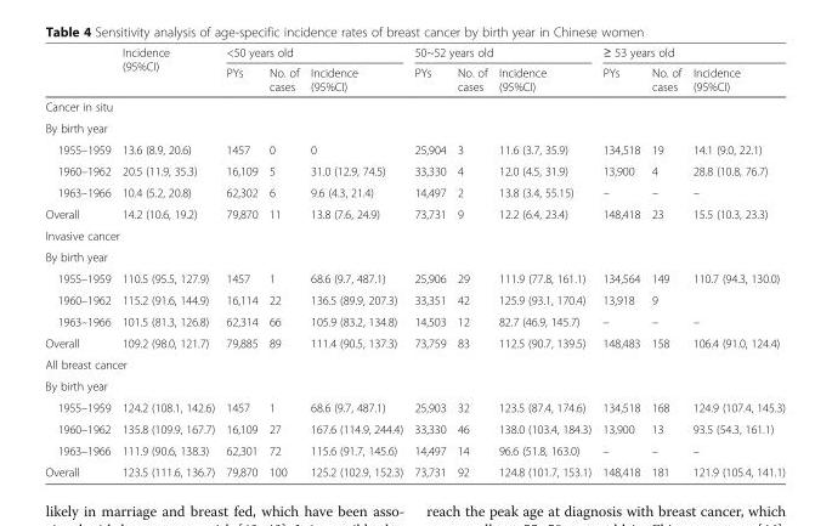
<table><thead><tr><td rowspan="2"></td><td rowspan="2">Incidence (95%CI)</td><td colspan="3">&lt;50 years old</td><td colspan="3">50~52 years old</td><td colspan="3">≥ 53 years old</td></tr><tr><td>PYs</td><td>No. of cases</td><td>Incidence (95%CI)</td><td>PYs</td><td>No. of cases</td><td>Incidence (95%CI)</td><td>PYs</td><td>No. of cases</td><td>Incidence (95%CI)</td></tr></thead><tbody><tr><td colspan="11">Cancer in situ</td></tr><tr><td colspan="11">By birth year</td></tr><tr><td>1955–1959</td><td>13.6 (8.9, 20.6)</td><td>1457</td><td>0</td><td>0</td><td>25,904</td><td>3</td><td>11.6 (3.7, 35.9)</td><td>134,518</td><td>19</td><td>14.1 (9.0, 22.1)</td></tr><tr><td>1960–1962</td><td>20.5 (11.9, 35.3)</td><td>16,109</td><td>5</td><td>31.0 (12.9, 74.5)</td><td>33,330</td><td>4</td><td>12.0 (4.5, 31.9)</td><td>13,900</td><td>4</td><td>28.8 (10.8, 76.7)</td></tr><tr><td>1963–1966</td><td>10.4 (5.2, 20.8)</td><td>62,302</td><td>6</td><td>9.6 (4.3, 21.4)</td><td>14,497</td><td>2</td><td>13.8 (3.4, 55.15)</td><td>–</td><td>–</td><td>–</td></tr><tr><td>Overall</td><td>14.2 (10.6, 19.2)</td><td>79,870</td><td>11</td><td>13.8 (7.6, 24.9)</td><td>73,731</td><td>9</td><td>12.2 (6.4, 23.4)</td><td>148,418</td><td>23</td><td>15.5 (10.3, 23.3)</td></tr><tr><td colspan="11">Invasive cancer</td></tr><tr><td colspan="11">By birth year</td></tr><tr><td>1955–1959</td><td>110.5 (95.5, 127.9)</td><td>1457</td><td>1</td><td>68.6 (9.7, 487.1)</td><td>25,906</td><td>29</td><td>111.9 (77.8, 161.1)</td><td>134,564</td><td>149</td><td>110.7 (94.3, 130.0)</td></tr><tr><td>1960–1962</td><td>115.2 (91.6, 144.9)</td><td>16,114</td><td>22</td><td>136.5 (89.9, 207.3)</td><td>33,351</td><td>42</td><td>125.9 (93.1, 170.4)</td><td>13,918</td><td>9</td><td></td></tr><tr><td>1963–1966</td><td>101.5 (81.3, 126.8)</td><td>62,314</td><td>66</td><td>105.9 (83.2, 134.8)</td><td>14,503</td><td>12</td><td>82.7 (46.9, 145.7)</td><td>–</td><td>–</td><td>–</td></tr><tr><td>Overall</td><td>109.2 (98.0, 121.7)</td><td>79,885</td><td>89</td><td>111.4 (90.5, 137.3)</td><td>73,759</td><td>83</td><td>112.5 (90.7, 139.5)</td><td>148,483</td><td>158</td><td>106.4 (91.0, 124.4)</td></tr><tr><td colspan="11">All breast cancer</td></tr><tr><td colspan="11">By birth year</td></tr><tr><td>1955–1959</td><td>124.2 (108.1, 142.6)</td><td>1457</td><td>1</td><td>68.6 (9.7, 487.1)</td><td>25,903</td><td>32</td><td>123.5 (87.4, 174.6)</td><td>134,518</td><td>168</td><td>124.9 (107.4, 145.3)</td></tr><tr><td>1960–1962</td><td>135.8 (109.9, 167.7)</td><td>16,109</td><td>27</td><td>167.6 (114.9, 244.4)</td><td>33,330</td><td>46</td><td>138.0 (103.4, 184.3)</td><td>13,900</td><td>13</td><td>93.5 (54.3, 161.1)</td></tr><tr><td>1963–1966</td><td>111.9 (90.6, 138.3)</td><td>62,301</td><td>72</td><td>115.6 (91.7, 145.6)</td><td>14,497</td><td>14</td><td>96.6 (51.8, 163.0)</td><td>–</td><td>–</td><td>–</td></tr><tr><td>Overall</td><td>123.5 (111.6, 136.7)</td><td>79,870</td><td>100</td><td>125.2 (102.9, 152.3)</td><td>73,731</td><td>92</td><td>124.8 (101.7, 153.1)</td><td>148,418</td><td>181</td><td>121.9 (105.4, 141.1)</td></tr></tbody></table>